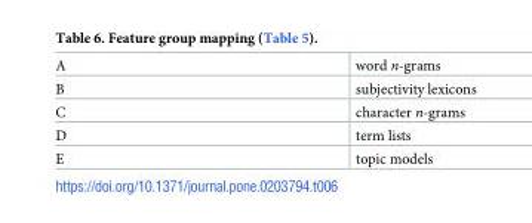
<table><tbody><tr><td>A</td><td>word n-grams</td></tr><tr><td>B</td><td>subjectivity lexicons</td></tr><tr><td>C</td><td>character n-grams</td></tr><tr><td>D</td><td>term lists</td></tr><tr><td>E</td><td>topic models</td></tr></tbody></table>